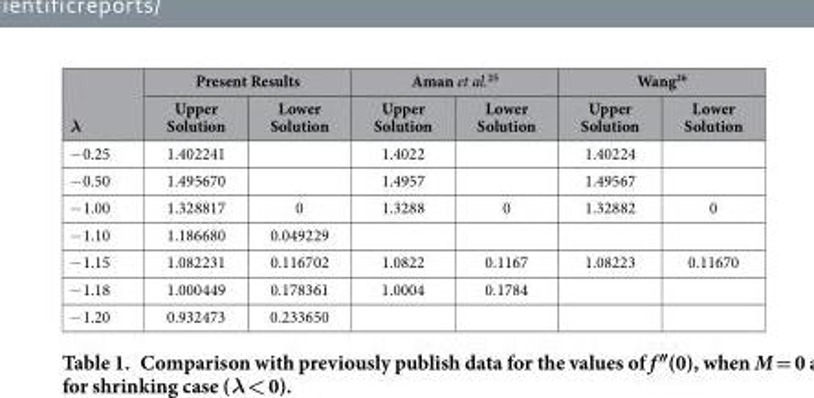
<table><thead><tr><td rowspan="2">λ</td><td colspan="2">Present Results</td><td colspan="2">Aman et al.<sup>25</sup></td><td colspan="2">Wang<sup>26</sup></td></tr><tr><td>Upper Solution</td><td>Lower Solution</td><td>Upper Solution</td><td>Lower Solution</td><td>Upper Solution</td><td>Lower Solution</td></tr></thead><tbody><tr><td>− 0.25</td><td>1.402241</td><td></td><td>1.4022</td><td></td><td>1.40224</td><td></td></tr><tr><td>− 0.50</td><td>1.495670</td><td></td><td>1.4957</td><td></td><td>1.49567</td><td></td></tr><tr><td>− 1.00</td><td>1.328817</td><td>0</td><td>1.3288</td><td>0</td><td>1.32882</td><td>0</td></tr><tr><td>− 1.10</td><td>1.186680</td><td>0.049229</td><td></td><td></td><td></td><td></td></tr><tr><td>− 1.15</td><td>1.082231</td><td>0.116702</td><td>1.0822</td><td>0.1167</td><td>1.08223</td><td>0.11670</td></tr><tr><td>− 1.18</td><td>1.000449</td><td>0.178361</td><td>1.0004</td><td>0.1784</td><td></td><td></td></tr><tr><td>− 1.20</td><td>0.932473</td><td>0.233650</td><td></td><td></td><td></td><td></td></tr></tbody></table>